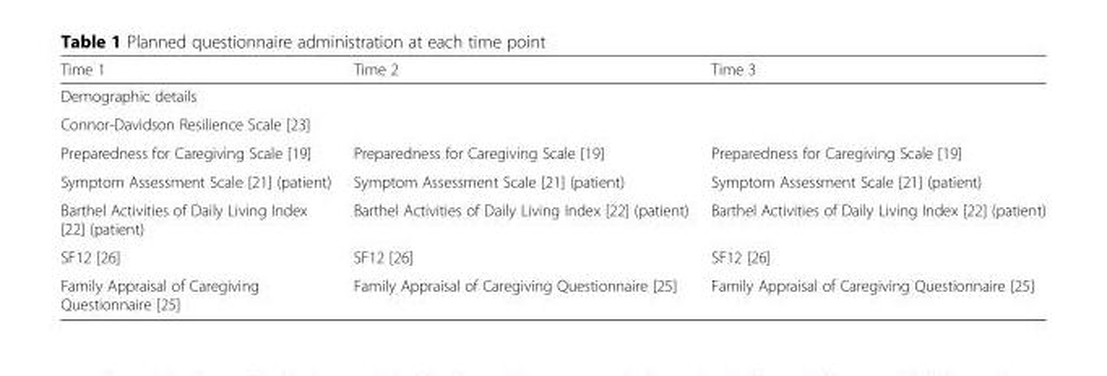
<table><thead><tr><td>Time 1</td><td>Time 2</td><td>Time 3</td></tr></thead><tbody><tr><td colspan="3">Demographic details</td></tr><tr><td colspan="3">Connor-Davidson Resilience Scale [23]</td></tr><tr><td>Preparedness for Caregiving Scale [19]</td><td>Preparedness for Caregiving Scale [19]</td><td>Preparedness for Caregiving Scale [19]</td></tr><tr><td>Symptom Assessment Scale [21] (patient)</td><td>Symptom Assessment Scale [21] (patient)</td><td>Symptom Assessment Scale [21] (patient)</td></tr><tr><td>Barthel Activities of Daily Living Index [22] (patient)</td><td>Barthel Activities of Daily Living Index [22] (patient)</td><td>Barthel Activities of Daily Living Index [22] (patient)</td></tr><tr><td>SF12 [26]</td><td>SF12 [26]</td><td>SF12 [26]</td></tr><tr><td>Family Appraisal of Caregiving Questionnaire [25]</td><td>Family Appraisal of Caregiving Questionnaire [25]</td><td>Family Appraisal of Caregiving Questionnaire [25]</td></tr></tbody></table>